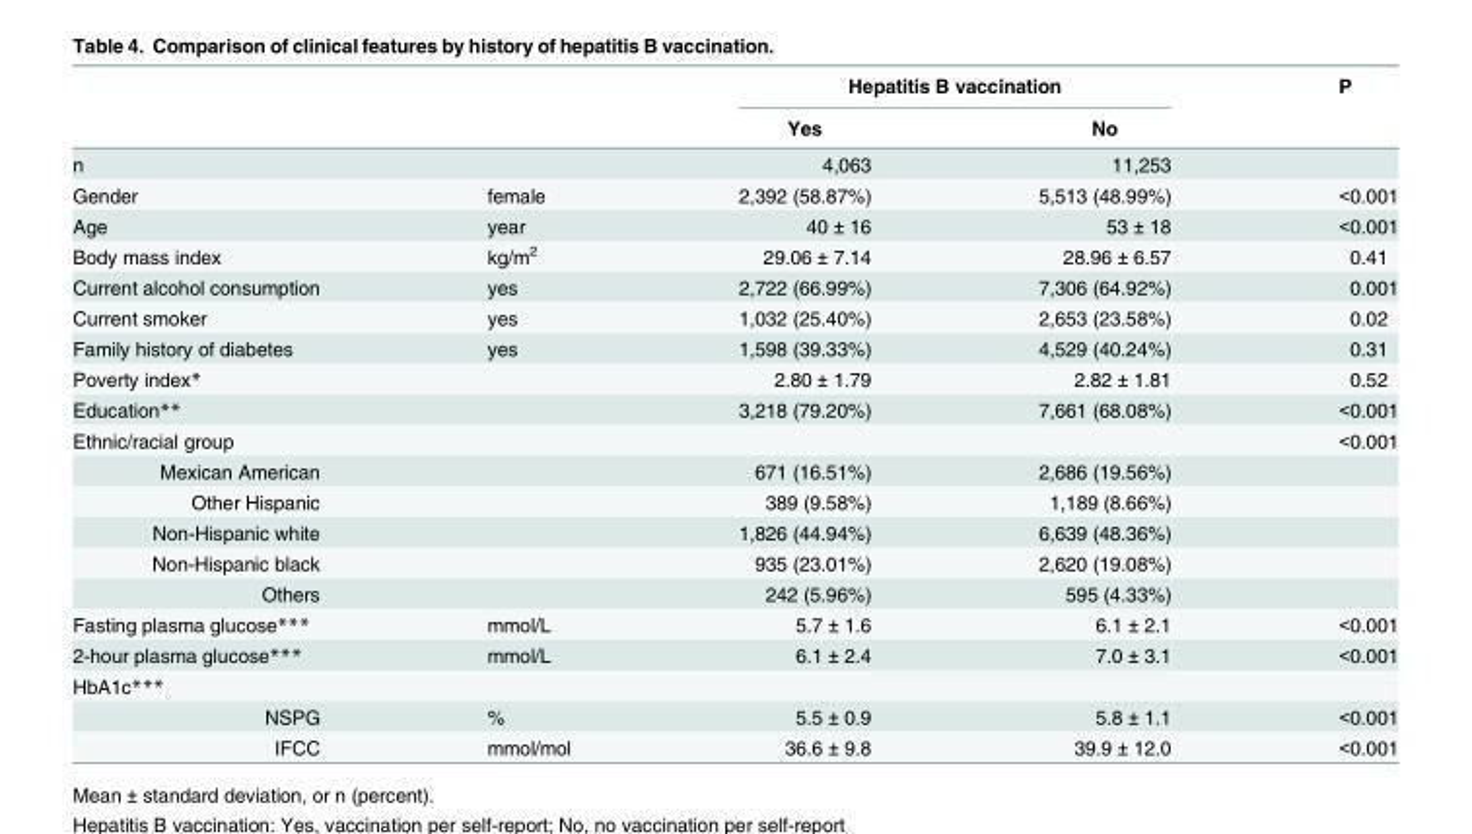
<table><thead><tr><td rowspan="2"></td><td rowspan="2"></td><td colspan="2">Hepatitis B vaccination</td><td rowspan="2">P</td></tr><tr><td>Yes</td><td>No</td></tr></thead><tbody><tr><td>n</td><td></td><td>4,063</td><td>11,253</td><td></td></tr><tr><td>Gender</td><td>female</td><td>2,392 (58.87%)</td><td>5,513 (48.99%)</td><td>&lt;0.001</td></tr><tr><td>Age</td><td>year</td><td>40 ± 16</td><td>53 ± 18</td><td>&lt;0.001</td></tr><tr><td>Body mass index</td><td>kg/m<sup>2</sup></td><td>29.06 ± 7.14</td><td>28.96 ± 6.57</td><td>0.41</td></tr><tr><td>Current alcohol consumption</td><td>yes</td><td>2,722 (66.99%)</td><td>7,306 (64.92%)</td><td>0.001</td></tr><tr><td>Current smoker</td><td>yes</td><td>1,032 (25.40%)</td><td>2,653 (23.58%)</td><td>0.02</td></tr><tr><td>Family history of diabetes</td><td>yes</td><td>1,598 (39.33%)</td><td>4,529 (40.24%)</td><td>0.31</td></tr><tr><td>Poverty index*</td><td></td><td>2.80 ± 1.79</td><td>2.82 ± 1.81</td><td>0.52</td></tr><tr><td>Education**</td><td></td><td>3,218 (79.20%)</td><td>7,661 (68.08%)</td><td>&lt;0.001</td></tr><tr><td>Ethnic/racial group</td><td></td><td></td><td></td><td>&lt;0.001</td></tr><tr><td>Mexican American</td><td></td><td>671 (16.51%)</td><td>2,686 (19.56%)</td><td></td></tr><tr><td>Other Hispanic</td><td></td><td>389 (9.58%)</td><td>1,189 (8.66%)</td><td></td></tr><tr><td>Non-Hispanic white</td><td></td><td>1,826 (44.94%)</td><td>6,639 (48.36%)</td><td></td></tr><tr><td>Non-Hispanic black</td><td></td><td>935 (23.01%)</td><td>2,620 (19.08%)</td><td></td></tr><tr><td>Others</td><td></td><td>242 (5.96%)</td><td>595 (4.33%)</td><td></td></tr><tr><td>Fasting plasma glucose***</td><td>mmol/L</td><td>5.7 ± 1.6</td><td>6.1 ± 2.1</td><td>&lt;0.001</td></tr><tr><td>2-hour plasma glucose***</td><td>mmol/L</td><td>6.1 ± 2.4</td><td>7.0 ± 3.1</td><td>&lt;0.001</td></tr><tr><td colspan="5">HbA1c***</td></tr><tr><td>NSPG</td><td>%</td><td>5.5 ± 0.9</td><td>5.8 ± 1.1</td><td>&lt;0.001</td></tr><tr><td>IFCC</td><td>mmol/mol</td><td>36.6 ± 9.8</td><td>39.9 ± 12.0</td><td>&lt;0.001</td></tr></tbody></table>